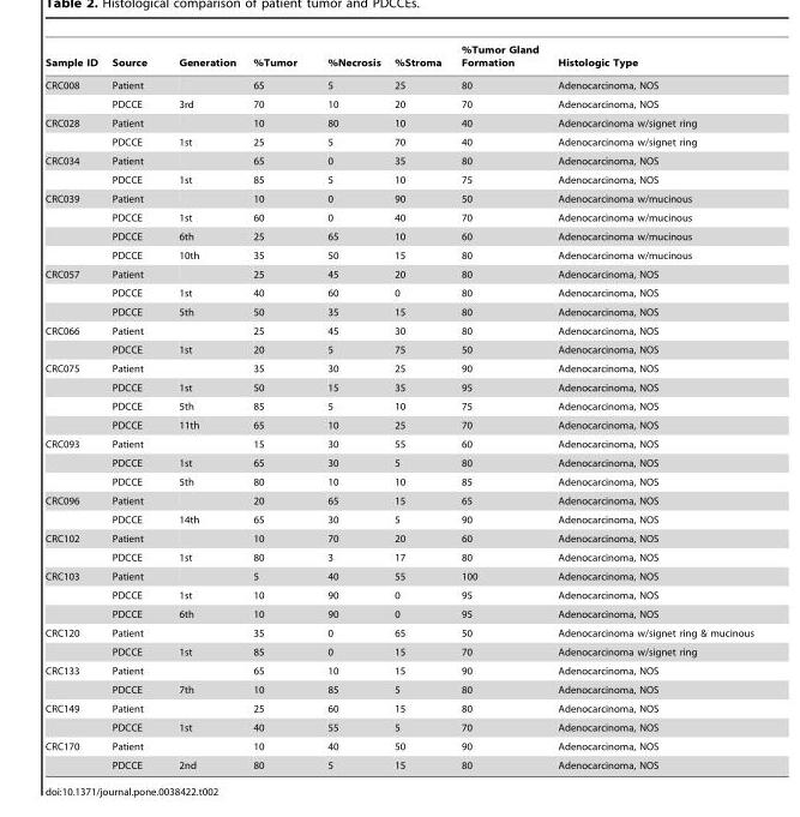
<table><thead><tr><td>Sample ID</td><td>Source</td><td>Generation</td><td>%Tumor</td><td>%Necrosis</td><td>%Stroma</td><td>%Tumor Gland Formation</td><td>Histologic Type</td></tr></thead><tbody><tr><td rowspan="2">CRC008</td><td>Patient</td><td></td><td>65</td><td>5</td><td>25</td><td>80</td><td>Adenocarcinoma, NOS</td></tr><tr><td>PDCCE</td><td>3rd</td><td>70</td><td>10</td><td>20</td><td>70</td><td>Adenocarcinoma, NOS</td></tr><tr><td rowspan="2">CRC028</td><td>Patient</td><td></td><td>10</td><td>80</td><td>10</td><td>40</td><td>Adenocarcinoma w/signet ring</td></tr><tr><td>PDCCE</td><td>1st</td><td>25</td><td>5</td><td>70</td><td>40</td><td>Adenocarcinoma w/signet ring</td></tr><tr><td rowspan="2">CRC034</td><td>Patient</td><td></td><td>65</td><td>0</td><td>35</td><td>80</td><td>Adenocarcinoma, NOS</td></tr><tr><td>PDCCE</td><td>1st</td><td>85</td><td>5</td><td>10</td><td>75</td><td>Adenocarcinoma, NOS</td></tr><tr><td rowspan="4">CRC039</td><td>Patient</td><td></td><td>10</td><td>0</td><td>90</td><td>50</td><td>Adenocarcinoma w/mucinous</td></tr><tr><td>PDCCE</td><td>1st</td><td>60</td><td>0</td><td>40</td><td>70</td><td>Adenocarcinoma w/mucinous</td></tr><tr><td>PDCCE</td><td>6th</td><td>25</td><td>65</td><td>10</td><td>60</td><td>Adenocarcinoma w/mucinous</td></tr><tr><td>PDCCE</td><td>10th</td><td>35</td><td>50</td><td>15</td><td>80</td><td>Adenocarcinoma w/mucinous</td></tr><tr><td rowspan="3">CRC057</td><td>Patient</td><td></td><td>25</td><td>45</td><td>20</td><td>80</td><td>Adenocarcinoma, NOS</td></tr><tr><td>PDCCE</td><td>1st</td><td>40</td><td>60</td><td>0</td><td>80</td><td>Adenocarcinoma, NOS</td></tr><tr><td>PDCCE</td><td>5th</td><td>50</td><td>35</td><td>15</td><td>80</td><td>Adenocarcinoma, NOS</td></tr><tr><td rowspan="2">CRC066</td><td>Patient</td><td></td><td>25</td><td>45</td><td>30</td><td>80</td><td>Adenocarcinoma, NOS</td></tr><tr><td>PDCCE</td><td>1st</td><td>20</td><td>5</td><td>75</td><td>50</td><td>Adenocarcinoma, NOS</td></tr><tr><td rowspan="4">CRC075</td><td>Patient</td><td></td><td>35</td><td>30</td><td>25</td><td>90</td><td>Adenocarcinoma, NOS</td></tr><tr><td>PDCCE</td><td>1st</td><td>50</td><td>15</td><td>35</td><td>95</td><td>Adenocarcinoma, NOS</td></tr><tr><td>PDCCE</td><td>5th</td><td>85</td><td>5</td><td>10</td><td>75</td><td>Adenocarcinoma, NOS</td></tr><tr><td>PDCCE</td><td>11th</td><td>65</td><td>10</td><td>25</td><td>70</td><td>Adenocarcinoma, NOS</td></tr><tr><td rowspan="3">CRC093</td><td>Patient</td><td></td><td>15</td><td>30</td><td>55</td><td>60</td><td>Adenocarcinoma, NOS</td></tr><tr><td>PDCCE</td><td>1st</td><td>65</td><td>30</td><td>5</td><td>80</td><td>Adenocarcinoma, NOS</td></tr><tr><td>PDCCE</td><td>5th</td><td>80</td><td>10</td><td>10</td><td>85</td><td>Adenocarcinoma, NOS</td></tr><tr><td rowspan="2">CRC096</td><td>Patient</td><td></td><td>20</td><td>65</td><td>15</td><td>65</td><td>Adenocarcinoma, NOS</td></tr><tr><td>PDCCE</td><td>14th</td><td>65</td><td>30</td><td>5</td><td>90</td><td>Adenocarcinoma, NOS</td></tr><tr><td rowspan="2">CRC102</td><td>Patient</td><td></td><td>10</td><td>70</td><td>20</td><td>60</td><td>Adenocarcinoma, NOS</td></tr><tr><td>PDCCE</td><td>1st</td><td>80</td><td>3</td><td>17</td><td>80</td><td>Adenocarcinoma, NOS</td></tr><tr><td rowspan="3">CRC103</td><td>Patient</td><td></td><td>5</td><td>40</td><td>55</td><td>100</td><td>Adenocarcinoma, NOS</td></tr><tr><td>PDCCE</td><td>1st</td><td>10</td><td>90</td><td>0</td><td>95</td><td>Adenocarcinoma, NOS</td></tr><tr><td>PDCCE</td><td>6th</td><td>10</td><td>90</td><td>0</td><td>95</td><td>Adenocarcinoma, NOS</td></tr><tr><td rowspan="2">CRC120</td><td>Patient</td><td></td><td>35</td><td>0</td><td>65</td><td>50</td><td>Adenocarcinoma w/signet ring &amp; mucinous</td></tr><tr><td>PDCCE</td><td>1st</td><td>85</td><td>0</td><td>15</td><td>70</td><td>Adenocarcinoma w/signet ring</td></tr><tr><td rowspan="2">CRC133</td><td>Patient</td><td></td><td>65</td><td>10</td><td>15</td><td>90</td><td>Adenocarcinoma, NOS</td></tr><tr><td>PDCCE</td><td>7th</td><td>10</td><td>85</td><td>5</td><td>80</td><td>Adenocarcinoma, NOS</td></tr><tr><td rowspan="2">CRC149</td><td>Patient</td><td></td><td>25</td><td>60</td><td>15</td><td>80</td><td>Adenocarcinoma, NOS</td></tr><tr><td>PDCCE</td><td>1st</td><td>40</td><td>55</td><td>5</td><td>70</td><td>Adenocarcinoma, NOS</td></tr><tr><td rowspan="2">CRC170</td><td>Patient</td><td></td><td>10</td><td>40</td><td>50</td><td>90</td><td>Adenocarcinoma, NOS</td></tr><tr><td>PDCCE</td><td>2nd</td><td>80</td><td>5</td><td>15</td><td>80</td><td>Adenocarcinoma, NOS</td></tr></tbody></table>